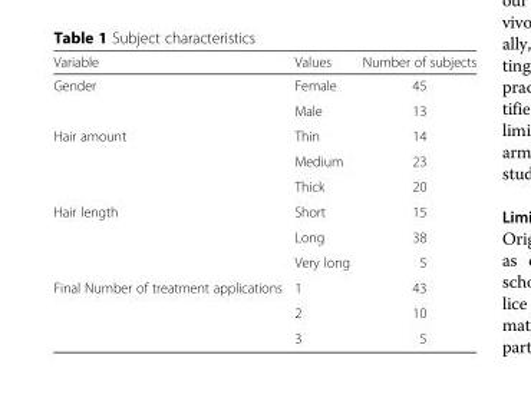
<table><thead><tr><td>Variable</td><td>Values</td><td>Number of subjects</td></tr></thead><tbody><tr><td rowspan="2">Gender</td><td>Female</td><td>45</td></tr><tr><td>Male</td><td>13</td></tr><tr><td rowspan="3">Hair amount</td><td>Thin</td><td>14</td></tr><tr><td>Medium</td><td>23</td></tr><tr><td>Thick</td><td>20</td></tr><tr><td rowspan="3">Hair length</td><td>Short</td><td>15</td></tr><tr><td>Long</td><td>38</td></tr><tr><td>Very long</td><td>5</td></tr><tr><td rowspan="3">Final Number of treatment applications</td><td>1</td><td>43</td></tr><tr><td>2</td><td>10</td></tr><tr><td>3</td><td>5</td></tr></tbody></table>